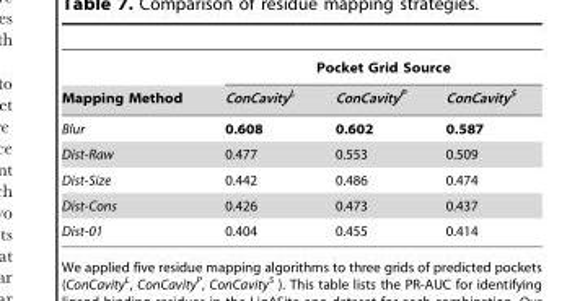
<table><thead><tr><td rowspan="2">Mapping Method</td><td colspan="3">Pocket Grid Source</td></tr><tr><td>ConCavity<sup>L</sup></td><td>ConCavity<sup>P</sup></td><td>ConCavity<sup>S</sup></td></tr></thead><tbody><tr><td>Blur</td><td>0.608</td><td>0.602</td><td>0.587</td></tr><tr><td>Dist-Raw</td><td>0.477</td><td>0.553</td><td>0.509</td></tr><tr><td>Dist-Size</td><td>0.442</td><td>0.486</td><td>0.474</td></tr><tr><td>Dist-Cons</td><td>0.426</td><td>0.473</td><td>0.437</td></tr><tr><td>Dist-01</td><td>0.404</td><td>0.455</td><td>0.414</td></tr></tbody></table>